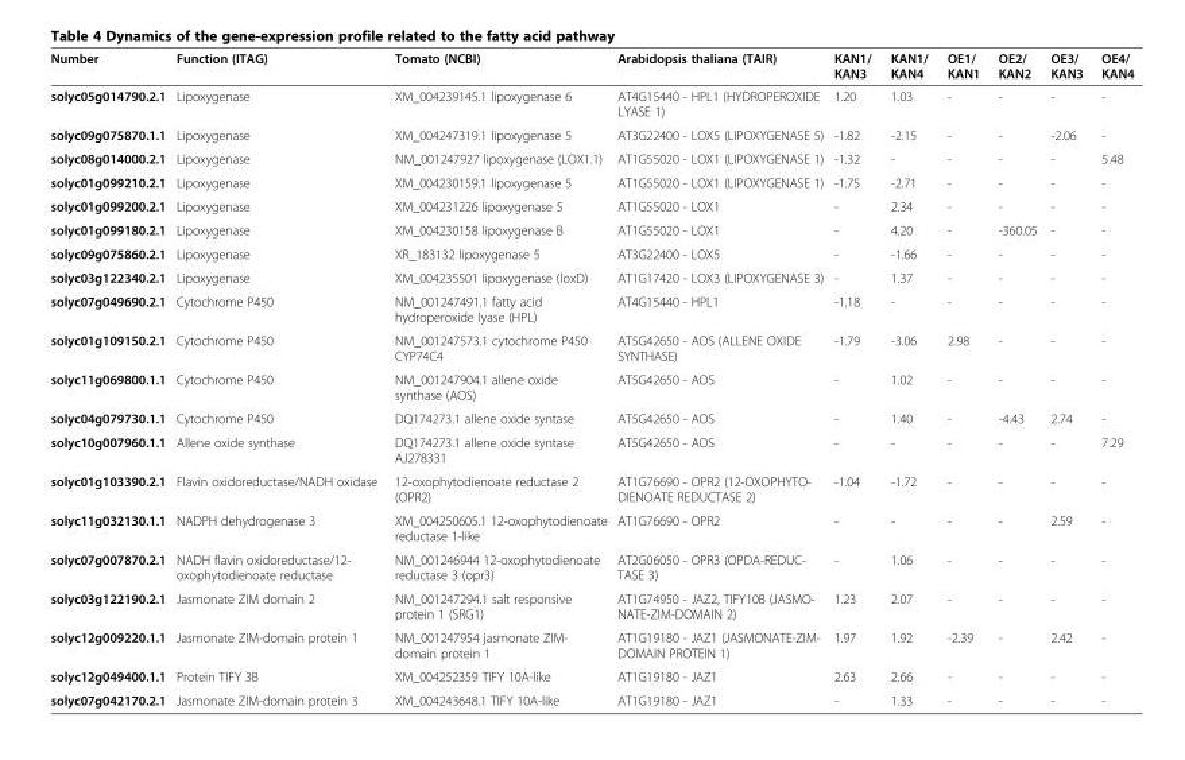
<table><thead><tr><td>Number</td><td>Function (ITAG)</td><td>Tomato (NCBI)</td><td>Arabidopsis thaliana (TAIR)</td><td>KAN1/ KAN3</td><td>KAN1/ KAN4</td><td>OE1/ KAN1</td><td>OE2/ KAN2</td><td>OE3/ KAN3</td><td>OE4/ KAN4</td></tr></thead><tbody><tr><td>solyc05g014790.2.1</td><td>Lipoxygenase</td><td>XM_004239145.1 lipoxygenase 6</td><td>AT4G15440 - HPL1 (HYDROPEROXIDE LYASE 1)</td><td>1.20</td><td>1.03</td><td>-</td><td>-</td><td>-</td><td>-</td></tr><tr><td>solyc09g075870.1.1</td><td>Lipoxygenase</td><td>XM_004247319.1 lipoxygenase 5</td><td>AT3G22400 - LOX5 (LIPOXYGENASE 5)</td><td>-1.82</td><td>-2.15</td><td>-</td><td>-</td><td>-2.06</td><td>-</td></tr><tr><td>solyc08g014000.2.1</td><td>Lipoxygenase</td><td>NM_001247927 lipoxygenase (LOX1.1)</td><td>AT1G55020 - LOX1 (LIPOXYGENASE 1)</td><td>-1.32</td><td>-</td><td>-</td><td>-</td><td>-</td><td>5.48</td></tr><tr><td>solyc01g099210.2.1</td><td>Lipoxygenase</td><td>XM_004230159.1 lipoxygenase 5</td><td>AT1G55020 - LOX1 (LIPOXYGENASE 1)</td><td>-1.75</td><td>-2.71</td><td>-</td><td>-</td><td>-</td><td>-</td></tr><tr><td>solyc01g099200.2.1</td><td>Lipoxygenase</td><td>XM_004231226 lipoxygenase 5</td><td>AT1G55020 - LOX1</td><td>-</td><td>2.34</td><td>-</td><td>-</td><td>-</td><td>-</td></tr><tr><td>solyc01g099180.2.1</td><td>Lipoxygenase</td><td>XM_004230158 lipoxygenase B</td><td>AT1G55020 - LOX1</td><td>-</td><td>4.20</td><td>-</td><td>-360.05</td><td>-</td><td>-</td></tr><tr><td>solyc09g075860.2.1</td><td>Lipoxygenase</td><td>XR_183132 lipoxygenase 5</td><td>AT3G22400 - LOX5</td><td>-</td><td>-1.66</td><td>-</td><td>-</td><td>-</td><td>-</td></tr><tr><td>solyc03g122340.2.1</td><td>Lipoxygenase</td><td>XM_004235501 lipoxygenase (loxD)</td><td>AT1G17420 - LOX3 (LIPOXYGENASE 3)</td><td>-</td><td>1.37</td><td>-</td><td>-</td><td>-</td><td>-</td></tr><tr><td>solyc07g049690.2.1</td><td>Cytochrome P450</td><td>NM_001247491.1 fatty acid hydroperoxide lyase (HPL)</td><td>AT4G15440 - HPL1</td><td>-1.18</td><td>-</td><td>-</td><td>-</td><td>-</td><td>-</td></tr><tr><td>solyc01g109150.2.1</td><td>Cytochrome P450</td><td>NM_001247573.1 cytochrome P450 CYP74C4</td><td>AT5G42650 - AOS (ALLENE OXIDE SYNTHASE)</td><td>-1.79</td><td>-3.06</td><td>2.98</td><td>-</td><td>-</td><td>-</td></tr><tr><td>solyc11g069800.1.1</td><td>Cytochrome P450</td><td>NM_001247904.1 allene oxide synthase (AOS)</td><td>AT5G42650 - AOS</td><td>-</td><td>1.02</td><td>-</td><td>-</td><td>-</td><td>-</td></tr><tr><td>solyc04g079730.1.1</td><td>Cytochrome P450</td><td>DQ174273.1 allene oxide syntase</td><td>AT5G42650 - AOS</td><td>-</td><td>1.40</td><td>-</td><td>-4.43</td><td>2.74</td><td>-</td></tr><tr><td>solyc10g007960.1.1</td><td>Allene oxide synthase</td><td>DQ174273.1 allene oxide syntase AJ278331</td><td>AT5G42650 - AOS</td><td>-</td><td>-</td><td>-</td><td>-</td><td>-</td><td>7.29</td></tr><tr><td>solyc01g103390.2.1</td><td>Flavin oxidoreductase/NADH oxidase</td><td>12-oxophytodienoate reductase 2 (OPR2)</td><td>AT1G76690 - OPR2 (12-OXOPHYTO- DIENOATE REDUCTASE 2)</td><td>-1.04</td><td>-1.72</td><td>-</td><td>-</td><td>-</td><td>-</td></tr><tr><td>solyc11g032130.1.1</td><td>NADPH dehydrogenase 3</td><td>XM_004250605.1 12-oxophytodienoate reductase 1-like</td><td>AT1G76690 - OPR2</td><td>-</td><td>-</td><td>-</td><td>-</td><td>2.59</td><td>-</td></tr><tr><td>solyc07g007870.2.1</td><td>NADH flavin oxidoreductase/12- oxophytodienoate reductase</td><td>NM_001246944 12-oxophytodienoate reductase 3 (opr3)</td><td>AT2G06050 - OPR3 (OPDA-REDUC- TASE 3)</td><td>-</td><td>1.06</td><td>-</td><td>-</td><td>-</td><td>-</td></tr><tr><td>solyc03g122190.2.1</td><td>Jasmonate ZIM domain 2</td><td>NM_001247294.1 salt responsive protein 1 (SRG1)</td><td>AT1G74950 - JAZ2, TIFY10B (JASMO- NATE-ZIM-DOMAIN 2)</td><td>1.23</td><td>2.07</td><td>-</td><td>-</td><td>-</td><td>-</td></tr><tr><td>solyc12g009220.1.1</td><td>Jasmonate ZIM-domain protein 1</td><td>NM_001247954 jasmonate ZIM- domain protein 1</td><td>AT1G19180 - JAZ1 (JASMONATE-ZIM- DOMAIN PROTEIN 1)</td><td>1.97</td><td>1.92</td><td>-2.39</td><td>-</td><td>2.42</td><td>-</td></tr><tr><td>solyc12g049400.1.1</td><td>Protein TIFY 3B</td><td>XM_004252359 TIFY 10A-like</td><td>AT1G19180 - JAZ1</td><td>2.63</td><td>2.66</td><td>-</td><td>-</td><td>-</td><td>-</td></tr><tr><td>solyc07g042170.2.1</td><td>Jasmonate ZIM-domain protein 3</td><td>XM_004243648.1 TIFY 10A-like</td><td>AT1G19180 - JAZ1</td><td>-</td><td>1.33</td><td>-</td><td>-</td><td>-</td><td>-</td></tr></tbody></table>